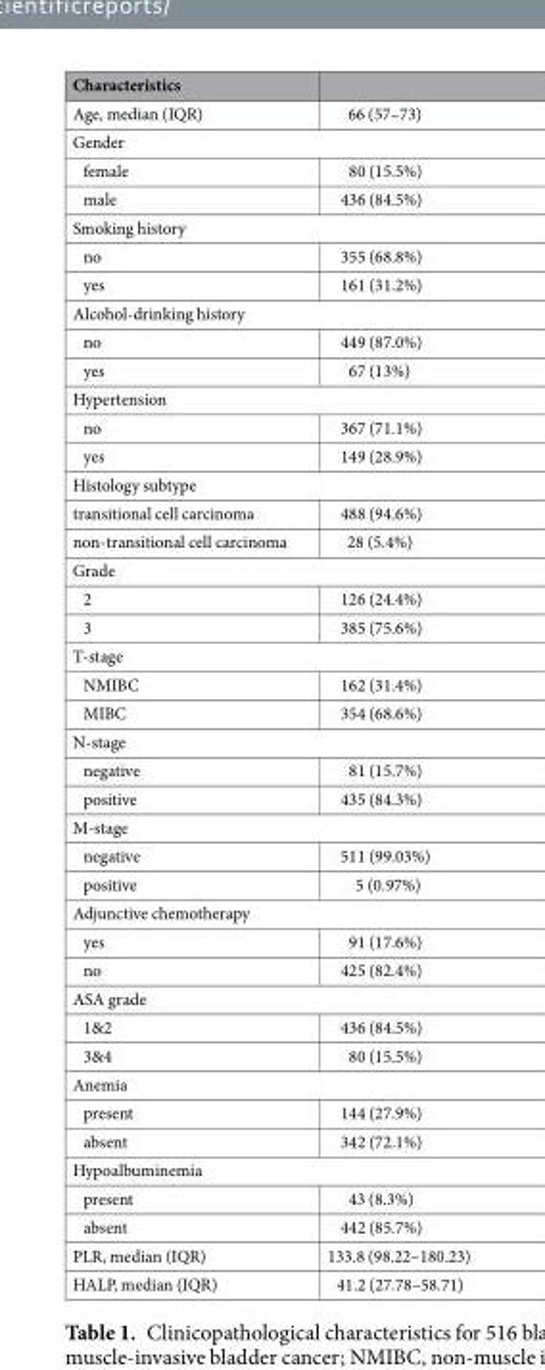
<table><thead><tr><td>Characteristics</td><td></td></tr></thead><tbody><tr><td>Age, median (IQR)</td><td>66 (57–73)</td></tr><tr><td colspan="2">Gender</td></tr><tr><td>female</td><td>80 (15.5%)</td></tr><tr><td>male</td><td>436 (84.5%)</td></tr><tr><td colspan="2">Smoking history</td></tr><tr><td>no</td><td>355 (68.8%)</td></tr><tr><td>yes</td><td>161 (31.2%)</td></tr><tr><td colspan="2">Alcohol-drinking history</td></tr><tr><td>no</td><td>449 (87.0%)</td></tr><tr><td>yes</td><td>67 (13%)</td></tr><tr><td colspan="2">Hypertension</td></tr><tr><td>no</td><td>367 (71.1%)</td></tr><tr><td>yes</td><td>149 (28.9%)</td></tr><tr><td colspan="2">Histology subtype</td></tr><tr><td>transitional cell carcinoma</td><td>488 (94.6%)</td></tr><tr><td>non-transitional cell carcinoma</td><td>28 (5.4%)</td></tr><tr><td colspan="2">Grade</td></tr><tr><td>2</td><td>126 (24.4%)</td></tr><tr><td>3</td><td>385 (75.6%)</td></tr><tr><td colspan="2">T-stage</td></tr><tr><td>NMIBC</td><td>162 (31.4%)</td></tr><tr><td>MIBC</td><td>354 (68.6%)</td></tr><tr><td colspan="2">N-stage</td></tr><tr><td>negative</td><td>81 (15.7%)</td></tr><tr><td>positive</td><td>435 (84.3%)</td></tr><tr><td colspan="2">M-stage</td></tr><tr><td>negative</td><td>511 (99.03%)</td></tr><tr><td>positive</td><td>5 (0.97%)</td></tr><tr><td colspan="2">Adjunctive chemotherapy</td></tr><tr><td>yes</td><td>91 (17.6%)</td></tr><tr><td>no</td><td>425 (82.4%)</td></tr><tr><td colspan="2">ASA grade</td></tr><tr><td>1&amp;2</td><td>436 (84.5%)</td></tr><tr><td>3&amp;4</td><td>80 (15.5%)</td></tr><tr><td colspan="2">Anemia</td></tr><tr><td>present</td><td>144 (27.9%)</td></tr><tr><td>absent</td><td>342 (72.1%)</td></tr><tr><td colspan="2">Hypoalbuminemia</td></tr><tr><td>present</td><td>43 (8.3%)</td></tr><tr><td>absent</td><td>442 (85.7%)</td></tr><tr><td>PLR, median (IQR)</td><td>133.8 (98.22–180.23)</td></tr><tr><td>HALP, median (IQR)</td><td>41.2 (27.78–58.71)</td></tr></tbody></table>